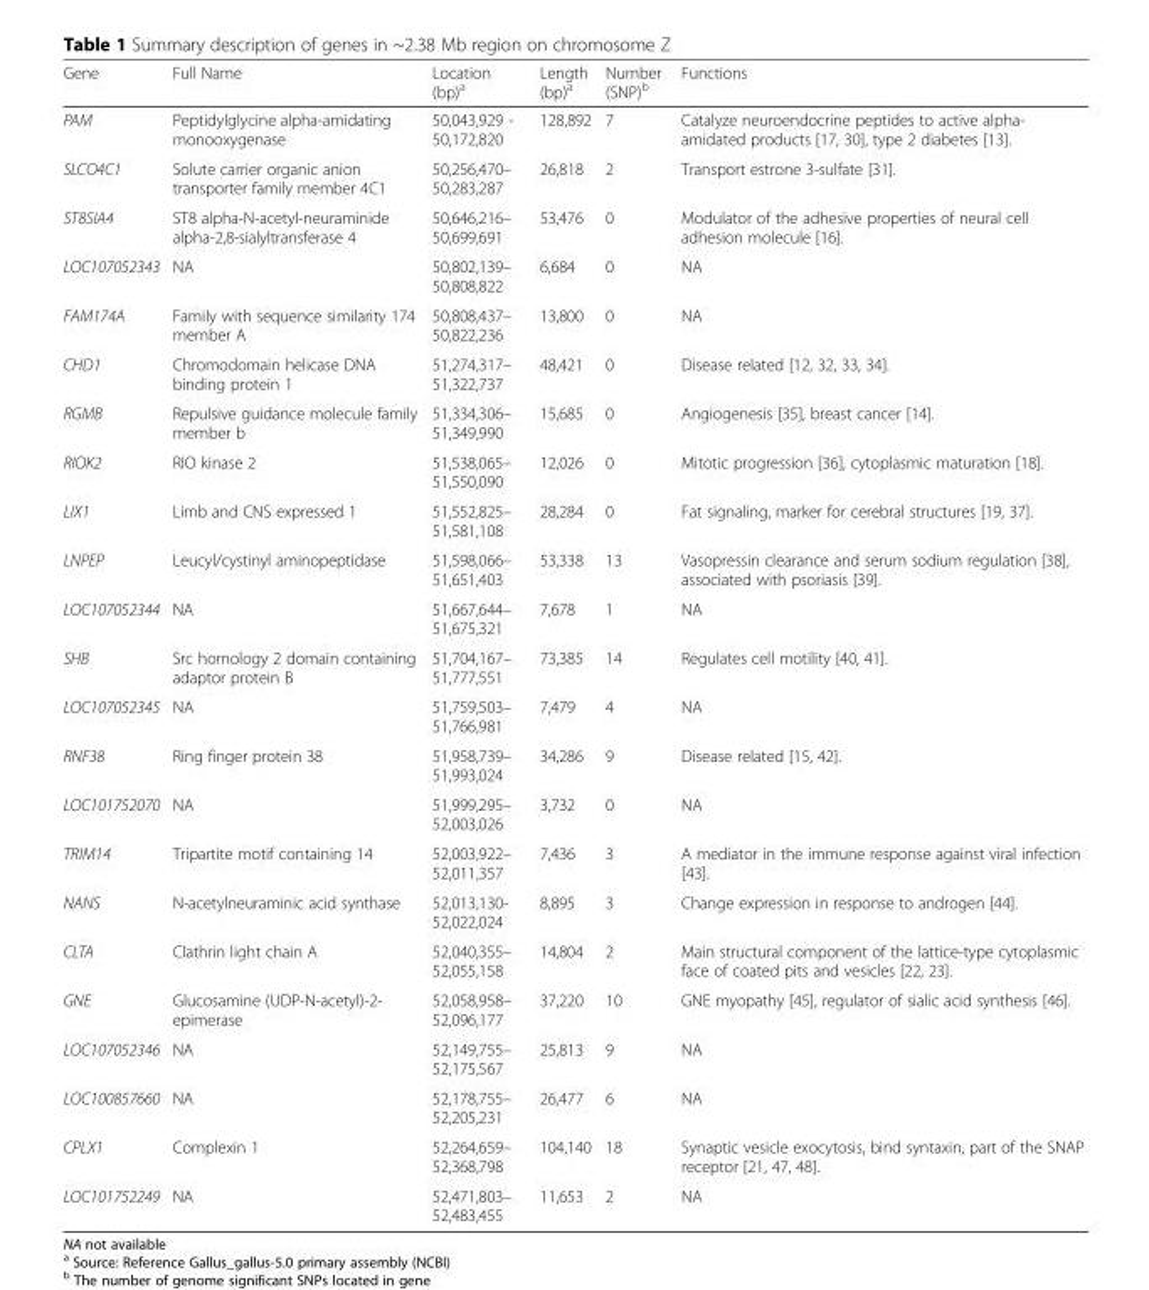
<table><thead><tr><td>Gene</td><td>Full Name</td><td>Location (bp)<sup>a</sup></td><td>Length (bp)<sup>a</sup></td><td>Number (SNP)<sup>b</sup></td><td>Functions</td></tr></thead><tbody><tr><td>PAM</td><td>Peptidylglycine alpha-amidating monooxygenase</td><td>50,043,929 - 50,172,820</td><td>128,892</td><td>7</td><td>Catalyze neuroendocrine peptides to active alpha- amidated products [17, 30], type 2 diabetes [13].</td></tr><tr><td>SLCO4C1</td><td>Solute carrier organic anion transporter family member 4C1</td><td>50,256,470– 50,283,287</td><td>26,818</td><td>2</td><td>Transport estrone 3-sulfate [31].</td></tr><tr><td>ST8SIA4</td><td>ST8 alpha-N-acetyl-neuraminide alpha-2,8-sialyltransferase 4</td><td>50,646,216– 50,699,691</td><td>53,476</td><td>0</td><td>Modulator of the adhesive properties of neural cell adhesion molecule [16].</td></tr><tr><td>LOC107052343</td><td>NA</td><td>50,802,139– 50,808,822</td><td>6,684</td><td>0</td><td>NA</td></tr><tr><td>FAM174A</td><td>Family with sequence similarity 174 member A</td><td>50,808,437– 50,822,236</td><td>13,800</td><td>0</td><td>NA</td></tr><tr><td>CHD1</td><td>Chromodomain helicase DNA binding protein 1</td><td>51,274,317– 51,322,737</td><td>48,421</td><td>0</td><td>Disease related [12, 32, 33, 34].</td></tr><tr><td>RGMB</td><td>Repulsive guidance molecule family member b</td><td>51,334,306– 51,349,990</td><td>15,685</td><td>0</td><td>Angiogenesis [35], breast cancer [14].</td></tr><tr><td>RIOK2</td><td>RIO kinase 2</td><td>51,538,065– 51,550,090</td><td>12,026</td><td>0</td><td>Mitotic progression [36], cytoplasmic maturation [18].</td></tr><tr><td>LIX1</td><td>Limb and CNS expressed 1</td><td>51,552,825– 51,581,108</td><td>28,284</td><td>0</td><td>Fat signaling, marker for cerebral structures [19, 37].</td></tr><tr><td>LNPEP</td><td>Leucyl/cystinyl aminopeptidase</td><td>51,598,066– 51,651,403</td><td>53,338</td><td>13</td><td>Vasopressin clearance and serum sodium regulation [38], associated with psoriasis [39].</td></tr><tr><td>LOC107052344</td><td>NA</td><td>51,667,644– 51,675,321</td><td>7,678</td><td>1</td><td>NA</td></tr><tr><td>SHB</td><td>Src homology 2 domain containing adaptor protein B</td><td>51,704,167– 51,777,551</td><td>73,385</td><td>14</td><td>Regulates cell motility [40, 41].</td></tr><tr><td>LOC107052345</td><td>NA</td><td>51,759,503– 51,766,981</td><td>7,479</td><td>4</td><td>NA</td></tr><tr><td>RNF38</td><td>Ring finger protein 38</td><td>51,958,739– 51,993,024</td><td>34,286</td><td>9</td><td>Disease related [15, 42].</td></tr><tr><td>LOC101752070</td><td>NA</td><td>51,999,295– 52,003,026</td><td>3,732</td><td>0</td><td>NA</td></tr><tr><td>TRIM14</td><td>Tripartite motif containing 14</td><td>52,003,922– 52,011,357</td><td>7,436</td><td>3</td><td>A mediator in the immune response against viral infection [43].</td></tr><tr><td>NANS</td><td>N-acetylneuraminic acid synthase</td><td>52,013,130- 52,022,024</td><td>8,895</td><td>3</td><td>Change expression in response to androgen [44].</td></tr><tr><td>CLTA</td><td>Clathrin light chain A</td><td>52,040,355– 52,055,158</td><td>14,804</td><td>2</td><td>Main structural component of the lattice-type cytoplasmic face of coated pits and vesicles [22, 23].</td></tr><tr><td>GNE</td><td>Glucosamine (UDP-N-acetyl)-2- epimerase</td><td>52,058,958– 52,096,177</td><td>37,220</td><td>10</td><td>GNE myopathy [45], regulator of sialic acid synthesis [46].</td></tr><tr><td>LOC107052346</td><td>NA</td><td>52,149,755– 52,175,567</td><td>25,813</td><td>9</td><td>NA</td></tr><tr><td>LOC100857660</td><td>NA</td><td>52,178,755– 52,205,231</td><td>26,477</td><td>6</td><td>NA</td></tr><tr><td>CPLX1</td><td>Complexin 1</td><td>52,264,659– 52,368,798</td><td>104,140</td><td>18</td><td>Synaptic vesicle exocytosis, bind syntaxin, part of the SNAP receptor [21, 47, 48].</td></tr><tr><td>LOC101752249</td><td>NA</td><td>52,471,803– 52,483,455</td><td>11,653</td><td>2</td><td>NA</td></tr></tbody></table>